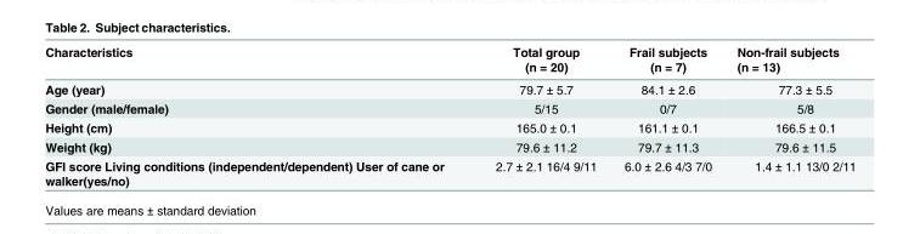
<table><thead><tr><td>Characteristics</td><td>Total group (n = 20)</td><td>Frail subjects (n = 7)</td><td>Non-frail subjects (n = 13)</td></tr></thead><tbody><tr><td>Age (year)</td><td>79.7 ± 5.7</td><td>84.1 ± 2.6</td><td>77.3 ± 5.5</td></tr><tr><td>Gender (male/female)</td><td>5/15</td><td>0/7</td><td>5/8</td></tr><tr><td>Height (cm)</td><td>165.0 ± 0.1</td><td>161.1 ± 0.1</td><td>166.5 ± 0.1</td></tr><tr><td>Weight (kg)</td><td>79.6 ± 11.2</td><td>79.7 ± 11.3</td><td>79.6 ± 11.5</td></tr><tr><td>GFI score Living conditions (independent/dependent) User of cane or walker(yes/no)</td><td>2.7 ± 2.1 16/4 9/11</td><td>6.0 ± 2.6 4/3 7/0</td><td>1.4 ± 1.1 13/0 2/11</td></tr></tbody></table>